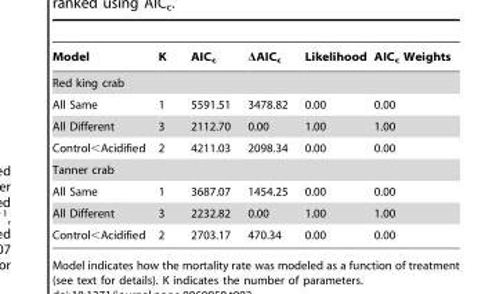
<table><thead><tr><td>Model</td><td>K</td><td>AIC<sub>c</sub></td><td>ΔAIC<sub>c</sub></td><td>Likelihood</td><td>AIC<sub>c</sub> Weights</td></tr></thead><tbody><tr><td colspan="6">Red king crab</td></tr><tr><td>All Same</td><td>1</td><td>5591.51</td><td>3478.82</td><td>0.00</td><td>0.00</td></tr><tr><td>All Different</td><td>3</td><td>2112.70</td><td>0.00</td><td>1.00</td><td>1.00</td></tr><tr><td>Control&lt;Acidified</td><td>2</td><td>4211.03</td><td>2098.34</td><td>0.00</td><td>0.00</td></tr><tr><td colspan="6">Tanner crab</td></tr><tr><td>All Same</td><td>1</td><td>3687.07</td><td>1454.25</td><td>0.00</td><td>0.00</td></tr><tr><td>All Different</td><td>3</td><td>2232.82</td><td>0.00</td><td>1.00</td><td>1.00</td></tr><tr><td>Control&lt;Acidified</td><td>2</td><td>2703.17</td><td>470.34</td><td>0.00</td><td>0.00</td></tr></tbody></table>